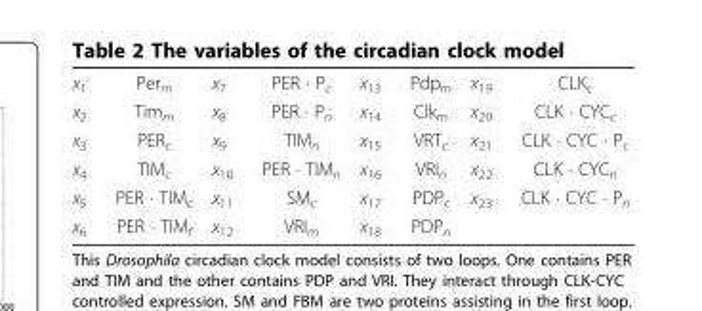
<table><tbody><tr><td>x<sub>1</sub></td><td>Per<sub>m</sub></td><td>x<sub>7</sub></td><td>PER · P<sub>c</sub></td><td>x<sub>13</sub></td><td>Pdp<sub>m</sub></td><td>x<sub>19</sub></td><td>CLK<sub>c</sub></td></tr><tr><td>x<sub>2</sub></td><td>Tim<sub>m</sub></td><td>x<sub>8</sub></td><td>PER · P<sub>n</sub></td><td>x<sub>14</sub></td><td>Clk<sub>m</sub></td><td>x<sub>20</sub></td><td>CLK · CYC<sub>c</sub></td></tr><tr><td>x<sub>3</sub></td><td>PER<sub>c</sub></td><td>x<sub>9</sub></td><td>TIM<sub>n</sub></td><td>x<sub>15</sub></td><td>VRT<sub>c</sub></td><td>x<sub>21</sub></td><td>CLK · CYC · P<sub>c</sub></td></tr><tr><td>x<sub>4</sub></td><td>TIM<sub>c</sub></td><td>x<sub>10</sub></td><td>PER · TIM<sub>n</sub></td><td>x<sub>16</sub></td><td>VRI<sub>n</sub></td><td>x<sub>22</sub></td><td>CLK · CYC<sub>n</sub></td></tr><tr><td>x<sub>5</sub></td><td>PER · TIM<sub>c</sub></td><td>x<sub>11</sub></td><td>SM<sub>c</sub></td><td>x<sub>17</sub></td><td>PDP<sub>c</sub></td><td>x<sub>23</sub></td><td>CLK · CYC · P<sub>n</sub></td></tr><tr><td>x<sub>6</sub></td><td>PER · TIM<sub>f</sub></td><td>x<sub>12</sub></td><td>VRI<sub>m</sub></td><td>x<sub>18</sub></td><td>PDP<sub>n</sub></td><td></td><td></td></tr></tbody></table>